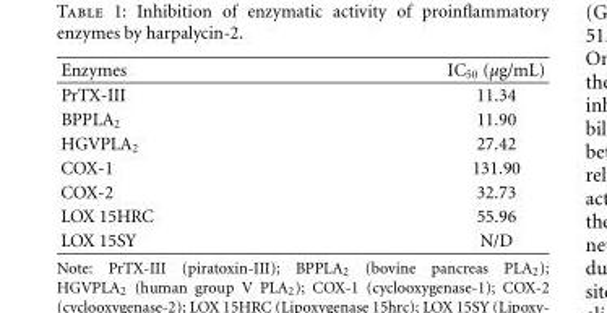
<table><thead><tr><td>Enzymes</td><td>IC<sub>50</sub> (µg/mL)</td></tr></thead><tbody><tr><td>PrTX-III</td><td>11.34</td></tr><tr><td>BPPLA<sub>2</sub></td><td>11.90</td></tr><tr><td>HGVPLA<sub>2</sub></td><td>27.42</td></tr><tr><td>COX-1</td><td>131.90</td></tr><tr><td>COX-2</td><td>32.73</td></tr><tr><td>LOX 15HRC</td><td>55.96</td></tr><tr><td>LOX 15SY</td><td>N/D</td></tr></tbody></table>